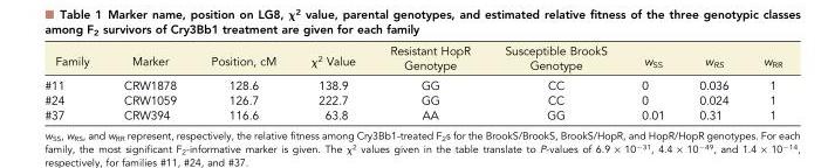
<table><thead><tr><td>Family</td><td>Marker</td><td>Position, cM</td><td>χ<sup>2</sup> Value</td><td>Resistant HopR Genotype</td><td>Susceptible BrookS Genotype</td><td>w<sub>SS</sub></td><td>w<sub>RS</sub></td><td>w<sub>RR</sub></td></tr></thead><tbody><tr><td>#11</td><td>CRW1878</td><td>128.6</td><td>138.9</td><td>GG</td><td>CC</td><td>0</td><td>0.036</td><td>1</td></tr><tr><td>#24</td><td>CRW1059</td><td>126.7</td><td>222.7</td><td>GG</td><td>CC</td><td>0</td><td>0.024</td><td>1</td></tr><tr><td>#37</td><td>CRW394</td><td>116.6</td><td>63.8</td><td>AA</td><td>GG</td><td>0.01</td><td>0.31</td><td>1</td></tr></tbody></table>